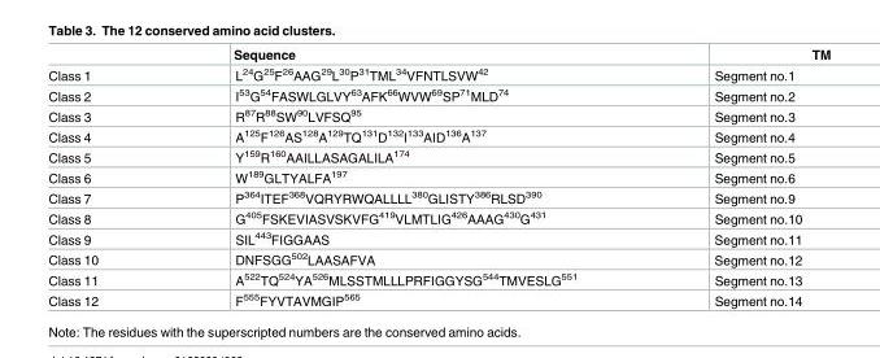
<table><thead><tr><td></td><td>Sequence</td><td>TM</td></tr></thead><tbody><tr><td>Class 1</td><td>L<sup>24</sup>G<sup>25</sup>F<sup>26</sup>AAG<sup>29</sup>L<sup>30</sup>P<sup>31</sup>TML<sup>34</sup>VFNTLSVW<sup>42</sup></td><td>Segment no.1</td></tr><tr><td>Class 2</td><td>I<sup>53</sup>G<sup>54</sup>FASWLGLVY<sup>63</sup>AFK<sup>66</sup>WVW<sup>69</sup>SP<sup>71</sup>MLD<sup>74</sup></td><td>Segment no.2</td></tr><tr><td>Class 3</td><td>R<sup>87</sup>R<sup>88</sup>SW<sup>90</sup>LVFSQ<sup>95</sup></td><td>Segment no.3</td></tr><tr><td>Class 4</td><td>A<sup>125</sup>F<sup>126</sup>AS<sup>128</sup>A<sup>129</sup>TQ<sup>131</sup>D<sup>132</sup>I<sup>133</sup>AID<sup>136</sup>A<sup>137</sup></td><td>Segment no.4</td></tr><tr><td>Class 5</td><td>Y<sup>159</sup>R<sup>160</sup>AAILLASAGALILA<sup>174</sup></td><td>Segment no.5</td></tr><tr><td>Class 6</td><td>W<sup>189</sup>GLTYALFA<sup>197</sup></td><td>Segment no.6</td></tr><tr><td>Class 7</td><td>P<sup>364</sup>ITEF<sup>368</sup>VQRYRWQALLLL<sup>380</sup>GLISTY<sup>386</sup>RLSD<sup>390</sup></td><td>Segment no.9</td></tr><tr><td>Class 8</td><td>G<sup>405</sup>FSKEVIASVSKVFG<sup>419</sup>VLMTLIG<sup>426</sup>AAAG<sup>430</sup>G<sup>431</sup></td><td>Segment no.10</td></tr><tr><td>Class 9</td><td>SIL<sup>443</sup>FIGGAAS</td><td>Segment no.11</td></tr><tr><td>Class 10</td><td>DNFSGG<sup>502</sup>LAASAFVA</td><td>Segment no.12</td></tr><tr><td>Class 11</td><td>A<sup>522</sup>TQ<sup>524</sup>YA<sup>526</sup>MLSSTMLLLPRFIGGYSG<sup>544</sup>TMVESLG<sup>551</sup></td><td>Segment no.13</td></tr><tr><td>Class 12</td><td>F<sup>555</sup>FYVTAVMGIP<sup>565</sup></td><td>Segment no.14</td></tr></tbody></table>